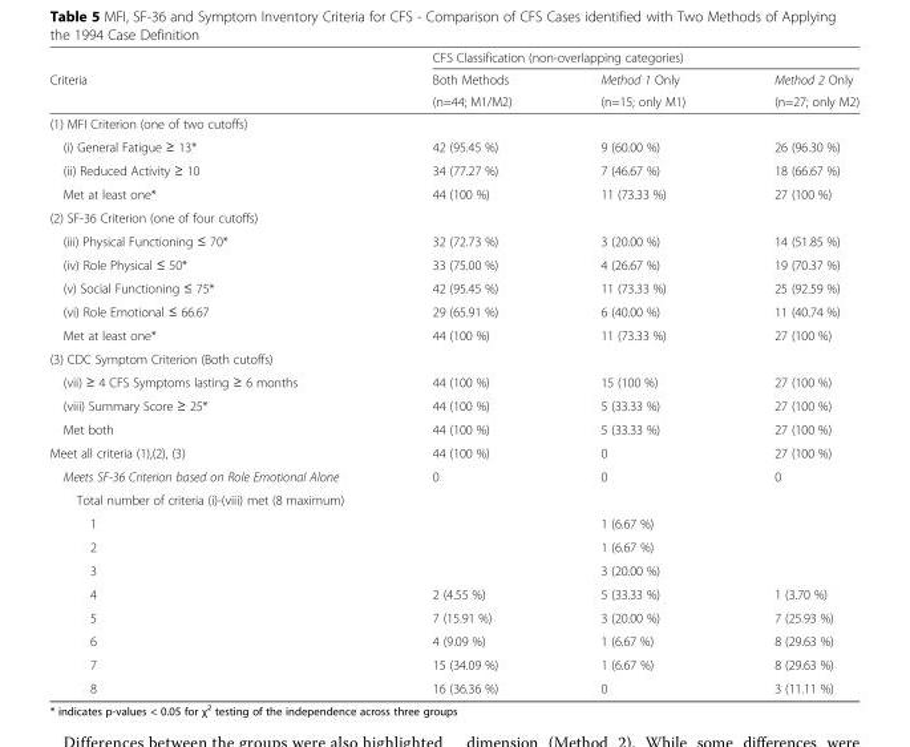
<table><thead><tr><td rowspan="3">Criteria</td><td colspan="3">CFS Classification (non-overlapping categories)</td></tr><tr><td rowspan="2">Both Methods (n=44; M1/M2)</td><td rowspan="2">Method 1 Only (n=15; only M1)</td><td rowspan="2">Method 2 Only (n=27; only M2)</td></tr><tr></tr></thead><tbody><tr><td colspan="4">(1) MFI Criterion (one of two cutoffs)</td></tr><tr><td>(i) General Fatigue ≥ 13*</td><td>42 (95.45 %)</td><td>9 (60.00 %)</td><td>26 (96.30 %)</td></tr><tr><td>(ii) Reduced Activity ≥ 10</td><td>34 (77.27 %)</td><td>7 (46.67 %)</td><td>18 (66.67 %)</td></tr><tr><td>Met at least one*</td><td>44 (100 %)</td><td>11 (73.33 %)</td><td>27 (100 %)</td></tr><tr><td colspan="4">(2) SF-36 Criterion (one of four cutoffs)</td></tr><tr><td>(iii) Physical Functioning ≤ 70*</td><td>32 (72.73 %)</td><td>3 (20.00 %)</td><td>14 (51.85 %)</td></tr><tr><td>(iv) Role Physical ≤ 50*</td><td>33 (75.00 %)</td><td>4 (26.67 %)</td><td>19 (70.37 %)</td></tr><tr><td>(v) Social Functioning ≤ 75*</td><td>42 (95.45 %)</td><td>11 (73.33 %)</td><td>25 (92.59 %)</td></tr><tr><td>(vi) Role Emotional ≤ 66.67</td><td>29 (65.91 %)</td><td>6 (40.00 %)</td><td>11 (40.74 %)</td></tr><tr><td>Met at least one*</td><td>44 (100 %)</td><td>11 (73.33 %)</td><td>27 (100 %)</td></tr><tr><td colspan="4">(3) CDC Symptom Criterion (Both cutoffs)</td></tr><tr><td>(vii) ≥ 4 CFS Symptoms lasting ≥ 6 months</td><td>44 (100 %)</td><td>15 (100 %)</td><td>27 (100 %)</td></tr><tr><td>(viii) Summary Score ≥ 25*</td><td>44 (100 %)</td><td>5 (33.33 %)</td><td>27 (100 %)</td></tr><tr><td>Met both</td><td>44 (100 %)</td><td>5 (33.33 %)</td><td>27 (100 %)</td></tr><tr><td>Meet all criteria (1),(2), (3)</td><td>44 (100 %)</td><td>0</td><td>27 (100 %)</td></tr><tr><td>Meets SF-36 Criterion based on Role Emotional Alone</td><td>0</td><td>0</td><td>0</td></tr><tr><td colspan="4">Total number of criteria (i)-(viii) met (8 maximum)</td></tr><tr><td>1</td><td></td><td>1 (6.67 %)</td><td></td></tr><tr><td>2</td><td></td><td>1 (6.67 %)</td><td></td></tr><tr><td>3</td><td></td><td>3 (20.00 %)</td><td></td></tr><tr><td>4</td><td>2 (4.55 %)</td><td>5 (33.33 %)</td><td>1 (3.70 %)</td></tr><tr><td>5</td><td>7 (15.91 %)</td><td>3 (20.00 %)</td><td>7 (25.93 %)</td></tr><tr><td>6</td><td>4 (9.09 %)</td><td>1 (6.67 %)</td><td>8 (29.63 %)</td></tr><tr><td>7</td><td>15 (34.09 %)</td><td>1 (6.67 %)</td><td>8 (29.63 %)</td></tr><tr><td>8</td><td>16 (36.36 %)</td><td>0</td><td>3 (11.11 %)</td></tr></tbody></table>